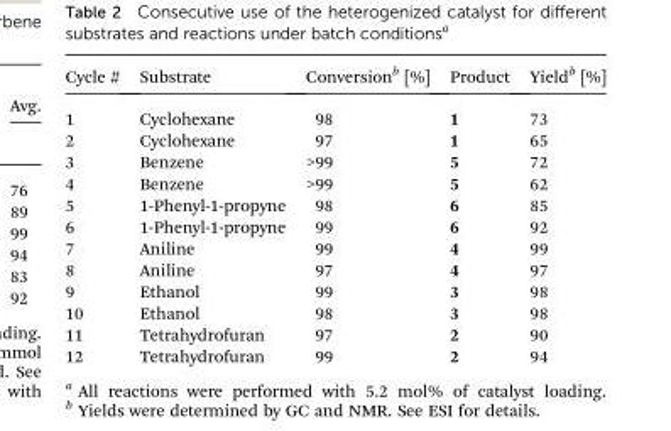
<table><thead><tr><td>Cycle #</td><td>Substrate</td><td>Conversion<sup>b</sup> [%]</td><td>Product</td><td>Yield<sup>b</sup> [%]</td></tr></thead><tbody><tr><td>1</td><td>Cyclohexane</td><td>98</td><td>1</td><td>73</td></tr><tr><td>2</td><td>Cyclohexane</td><td>97</td><td>1</td><td>65</td></tr><tr><td>3</td><td>Benzene</td><td>&gt;99</td><td>5</td><td>72</td></tr><tr><td>4</td><td>Benzene</td><td>&gt;99</td><td>5</td><td>62</td></tr><tr><td>5</td><td>1-Phenyl-1-propyne</td><td>98</td><td>6</td><td>85</td></tr><tr><td>6</td><td>1-Phenyl-1-propyne</td><td>99</td><td>6</td><td>92</td></tr><tr><td>7</td><td>Aniline</td><td>99</td><td>4</td><td>99</td></tr><tr><td>8</td><td>Aniline</td><td>97</td><td>4</td><td>97</td></tr><tr><td>9</td><td>Ethanol</td><td>99</td><td>3</td><td>98</td></tr><tr><td>10</td><td>Ethanol</td><td>98</td><td>3</td><td>98</td></tr><tr><td>11</td><td>Tetrahydrofuran</td><td>97</td><td>2</td><td>90</td></tr><tr><td>12</td><td>Tetrahydrofuran</td><td>99</td><td>2</td><td>94</td></tr></tbody></table>